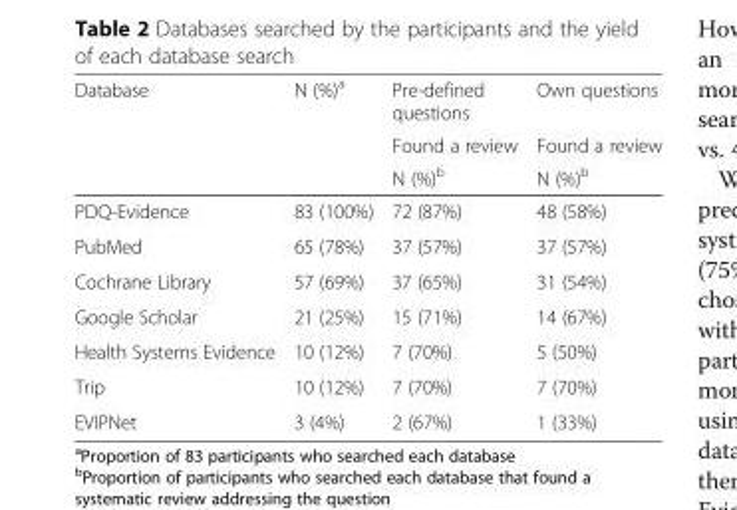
<table><thead><tr><td rowspan="3">Database</td><td rowspan="3">N (%)<sup>a</sup></td><td rowspan="3">Pre-defined questions Found a review N (%)<sup>b</sup></td><td rowspan="3">Own questions Found a review N (%)<sup>b</sup></td></tr><tr></tr><tr></tr></thead><tbody><tr><td>PDQ-Evidence</td><td>83 (100%)</td><td>72 (87%)</td><td>48 (58%)</td></tr><tr><td>PubMed</td><td>65 (78%)</td><td>37 (57%)</td><td>37 (57%)</td></tr><tr><td>Cochrane Library</td><td>57 (69%)</td><td>37 (65%)</td><td>31 (54%)</td></tr><tr><td>Google Scholar</td><td>21 (25%)</td><td>15 (71%)</td><td>14 (67%)</td></tr><tr><td>Health Systems Evidence</td><td>10 (12%)</td><td>7 (70%)</td><td>5 (50%)</td></tr><tr><td>Trip</td><td>10 (12%)</td><td>7 (70%)</td><td>7 (70%)</td></tr><tr><td>EVIPNet</td><td>3 (4%)</td><td>2 (67%)</td><td>1 (33%)</td></tr></tbody></table>